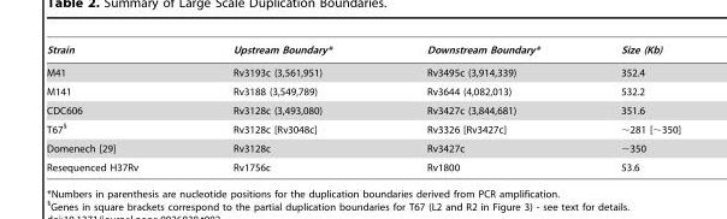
<table><thead><tr><td>Strain</td><td>Upstream Boundary*</td><td>Downstream Boundary*</td><td>Size (Kb)</td></tr></thead><tbody><tr><td>M41</td><td>Rv3193c (3,561,951)</td><td>Rv3495c (3,914,339)</td><td>352.4</td></tr><tr><td>M141</td><td>Rv3188 (3,549,789)</td><td>Rv3644 (4,082,013)</td><td>532.2</td></tr><tr><td>CDC606</td><td>Rv3128c (3,493,080)</td><td>Rv3427c (3,844,681)</td><td>351.6</td></tr><tr><td>T67§</td><td>Rv3128c [Rv3048c]</td><td>Rv3326 [Rv3427c]</td><td>∼281 [∼350]</td></tr><tr><td>Domenech [29]</td><td>Rv3128c</td><td>Rv3427c</td><td>∼350</td></tr><tr><td>Resequenced H37Rv</td><td>Rv1756c</td><td>Rv1800</td><td>53.6</td></tr></tbody></table>